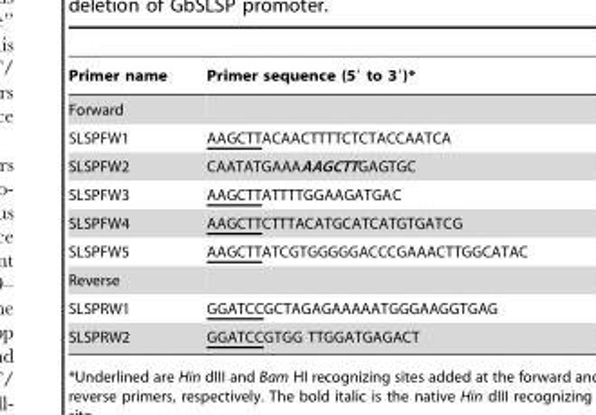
<table><thead><tr><td>Primer name</td><td>Primer sequence (5′ to 3′)*</td></tr></thead><tbody><tr><td colspan="2">Forward</td></tr><tr><td>SLSPFW1</td><td>AAGCTTACAACTTTTCTCTACCAATCA</td></tr><tr><td>SLSPFW2</td><td>CAATATGAAAAAGCTTGAGTGC</td></tr><tr><td>SLSPFW3</td><td>AAGCTTATTTTGGAAGATGAC</td></tr><tr><td>SLSPFW4</td><td>AAGCTTCTTTACATGCATCATGTGATCG</td></tr><tr><td>SLSPFW5</td><td>AAGCTTATCGTGGGGGACCCGAAACTTGGCATAC</td></tr><tr><td colspan="2">Reverse</td></tr><tr><td>SLSPRW1</td><td>GGATCCGCTAGAGAAAAATGGGAAGGTGAG</td></tr><tr><td>SLSPRW2</td><td>GGATCCGTGG TTGGATGAGACT</td></tr></tbody></table>